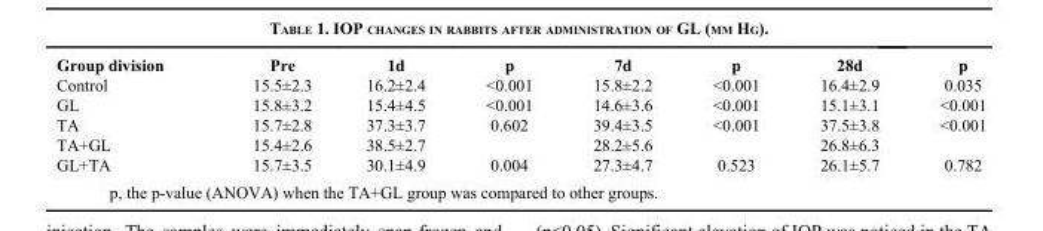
<table><thead><tr><td>Group division</td><td>Pre</td><td>1d</td><td>p</td><td>7d</td><td>p</td><td>28d</td><td>p</td></tr></thead><tbody><tr><td>Control</td><td>15.5±2.3</td><td>16.2±2.4</td><td>&lt;0.001</td><td>15.8±2.2</td><td>&lt;0.001</td><td>16.4±2.9</td><td>0.035</td></tr><tr><td>GL</td><td>15.8±3.2</td><td>15.4±4.5</td><td>&lt;0.001</td><td>14.6±3.6</td><td>&lt;0.001</td><td>15.1±3.1</td><td>&lt;0.001</td></tr><tr><td>TA</td><td>15.7±2.8</td><td>37.3±3.7</td><td>0.602</td><td>39.4±3.5</td><td>&lt;0.001</td><td>37.5±3.8</td><td>&lt;0.001</td></tr><tr><td>TA+GL</td><td>15.4±2.6</td><td>38.5±2.7</td><td></td><td>28.2±5.6</td><td></td><td>26.8±6.3</td><td></td></tr><tr><td>GL+TA</td><td>15.7±3.5</td><td>30.1±4.9</td><td>0.004</td><td>27.3±4.7</td><td>0.523</td><td>26.1±5.7</td><td>0.782</td></tr></tbody></table>